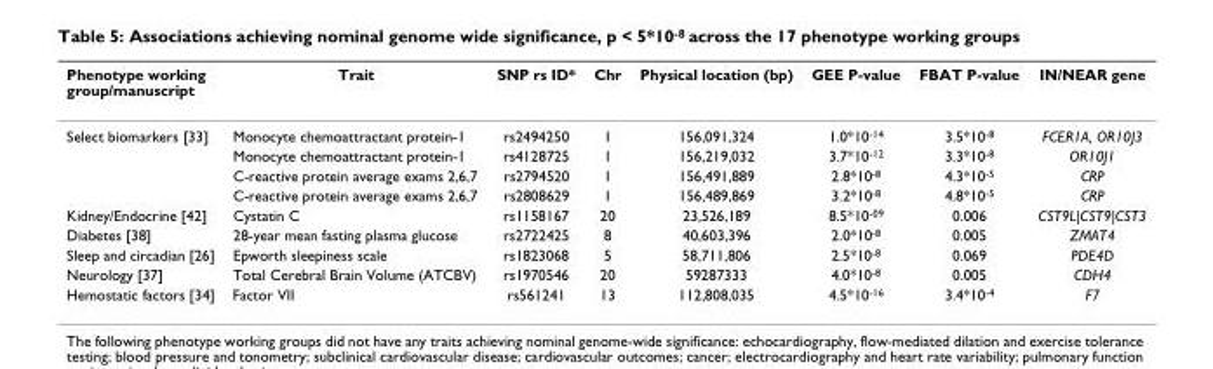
<table><thead><tr><td>Phenotype working group/manuscript</td><td>Trait</td><td>SNP rs ID*</td><td>Chr</td><td>Physical location (bp)</td><td>GEE P-value</td><td>FBAT P-value</td><td>IN/NEAR gene</td></tr></thead><tbody><tr><td rowspan="4">Select biomarkers [33]</td><td>Monocyte chemoattractant protein-1</td><td>rs2494250</td><td>1</td><td>156,091,324</td><td>1.0*10<sup>-14</sup></td><td>3.5*10<sup>-8</sup></td><td>FCER1A, OR10J3</td></tr><tr><td>Monocyte chemoattractant protein-1</td><td>rs4128725</td><td>1</td><td>156,219,032</td><td>3.7*10<sup>-12</sup></td><td>3.3*10<sup>-8</sup></td><td>OR10J1</td></tr><tr><td>C-reactive protein average exams 2,6,7</td><td>rs2794520</td><td>1</td><td>156,491,889</td><td>2.8*10<sup>-8</sup></td><td>4.3*10<sup>-5</sup></td><td>CRP</td></tr><tr><td>C-reactive protein average exams 2,6,7</td><td>rs2808629</td><td>1</td><td>156,489,869</td><td>3.2*10<sup>-8</sup></td><td>4.8*10<sup>-5</sup></td><td>CRP</td></tr><tr><td>Kidney/Endocrine [42]</td><td>Cystatin C</td><td>rs1158167</td><td>20</td><td>23,526,189</td><td>8.5*10<sup>-09</sup></td><td>0.006</td><td>CST9L|CST9|CST3</td></tr><tr><td>Diabetes [38]</td><td>28-year mean fasting plasma glucose</td><td>rs2722425</td><td>8</td><td>40,603,396</td><td>2.0*10<sup>-8</sup></td><td>0.005</td><td>ZMAT4</td></tr><tr><td>Sleep and circadian [26]</td><td>Epworth sleepiness scale</td><td>rs1823068</td><td>5</td><td>58,711,806</td><td>2.5*10<sup>-8</sup></td><td>0.069</td><td>PDE4D</td></tr><tr><td>Neurology [37]</td><td>Total Cerebral Brain Volume (ATCBV)</td><td>rs1970546</td><td>20</td><td>59287333</td><td>4.0*10<sup>-8</sup></td><td>0.005</td><td>CDH4</td></tr><tr><td>Hemostatic factors [34]</td><td>Factor VII</td><td>rs561241</td><td>13</td><td>112,808,035</td><td>4.5*10<sup>-16</sup></td><td>3.4*10<sup>-4</sup></td><td>F7</td></tr></tbody></table>